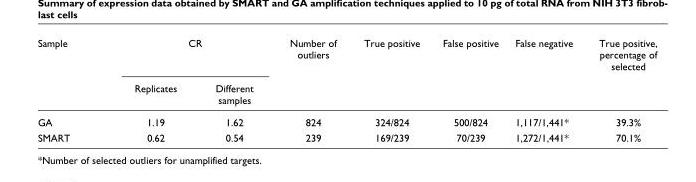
<table><thead><tr><td rowspan="2">Sample</td><td colspan="2">CR</td><td rowspan="2">Number of outliers</td><td rowspan="2">True positive</td><td rowspan="2">False positive</td><td rowspan="2">False negative</td><td rowspan="2">True positive, percentage of selected</td></tr><tr><td>Replicates</td><td>Different samples</td></tr></thead><tbody><tr><td>GA</td><td>1.19</td><td>1.62</td><td>824</td><td>324/824</td><td>500/824</td><td>1,117/1,441*</td><td>39.3%</td></tr><tr><td>SMART</td><td>0.62</td><td>0.54</td><td>239</td><td>169/239</td><td>70/239</td><td>1,272/1,441*</td><td>70.1%</td></tr></tbody></table>